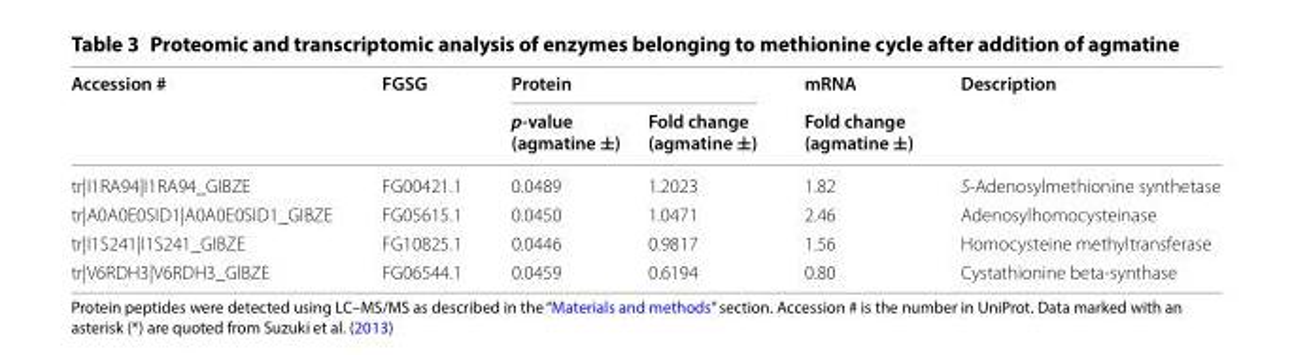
<table><thead><tr><td rowspan="2">Accession #</td><td rowspan="2">FGSG</td><td colspan="2">Protein</td><td rowspan="2">mRNA Fold change (agmatine ±)</td><td rowspan="2">Description</td></tr><tr><td>p-value (agmatine ±)</td><td>Fold change (agmatine ±)</td></tr></thead><tbody><tr><td>tr|I1RA94|I1RA94_GIBZE</td><td>FG00421.1</td><td>0.0489</td><td>1.2023</td><td>1.82</td><td>S-Adenosylmethionine synthetase</td></tr><tr><td>tr|A0A0E0SID1|A0A0E0SID1_GIBZE</td><td>FG05615.1</td><td>0.0450</td><td>1.0471</td><td>2.46</td><td>Adenosylhomocysteinase</td></tr><tr><td>tr|I1S241|I1S241_GIBZE</td><td>FG10825.1</td><td>0.0446</td><td>0.9817</td><td>1.56</td><td>Homocysteine methyltransferase</td></tr><tr><td>tr|V6RDH3|V6RDH3_GIBZE</td><td>FG06544.1</td><td>0.0459</td><td>0.6194</td><td>0.80</td><td>Cystathionine beta-synthase</td></tr></tbody></table>